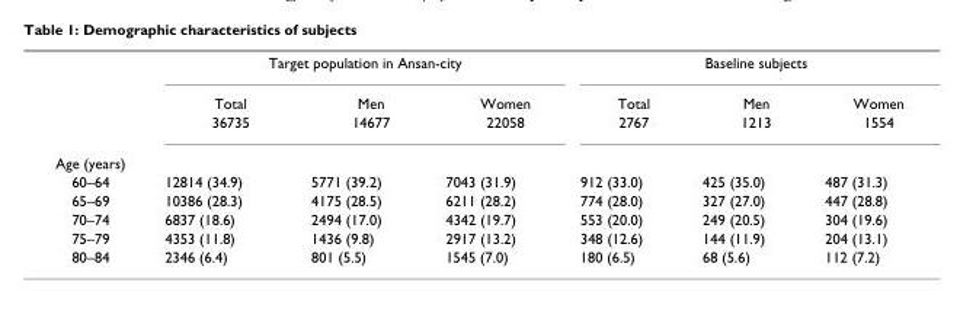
<table><thead><tr><td rowspan="2"></td><td colspan="3">Target population in Ansan-city</td><td colspan="3">Baseline subjects</td></tr><tr><td>Total</td><td>Men</td><td>Women</td><td>Total</td><td>Men</td><td>Women</td></tr></thead><tbody><tr><td></td><td>36735</td><td>14677</td><td>22058</td><td>2767</td><td>1213</td><td>1554</td></tr><tr><td colspan="7">Age (years)</td></tr><tr><td>60–64</td><td>12814 (34.9)</td><td>5771 (39.2)</td><td>7043 (31.9)</td><td>912 (33.0)</td><td>425 (35.0)</td><td>487 (31.3)</td></tr><tr><td>65–69</td><td>10386 (28.3)</td><td>4175 (28.5)</td><td>6211 (28.2)</td><td>774 (28.0)</td><td>327 (27.0)</td><td>447 (28.8)</td></tr><tr><td>70–74</td><td>6837 (18.6)</td><td>2494 (17.0)</td><td>4342 (19.7)</td><td>553 (20.0)</td><td>249 (20.5)</td><td>304 (19.6)</td></tr><tr><td>75–79</td><td>4353 (11.8)</td><td>1436 (9.8)</td><td>2917 (13.2)</td><td>348 (12.6)</td><td>144 (11.9)</td><td>204 (13.1)</td></tr><tr><td>80–84</td><td>2346 (6.4)</td><td>801 (5.5)</td><td>1545 (7.0)</td><td>180 (6.5)</td><td>68 (5.6)</td><td>112 (7.2)</td></tr></tbody></table>